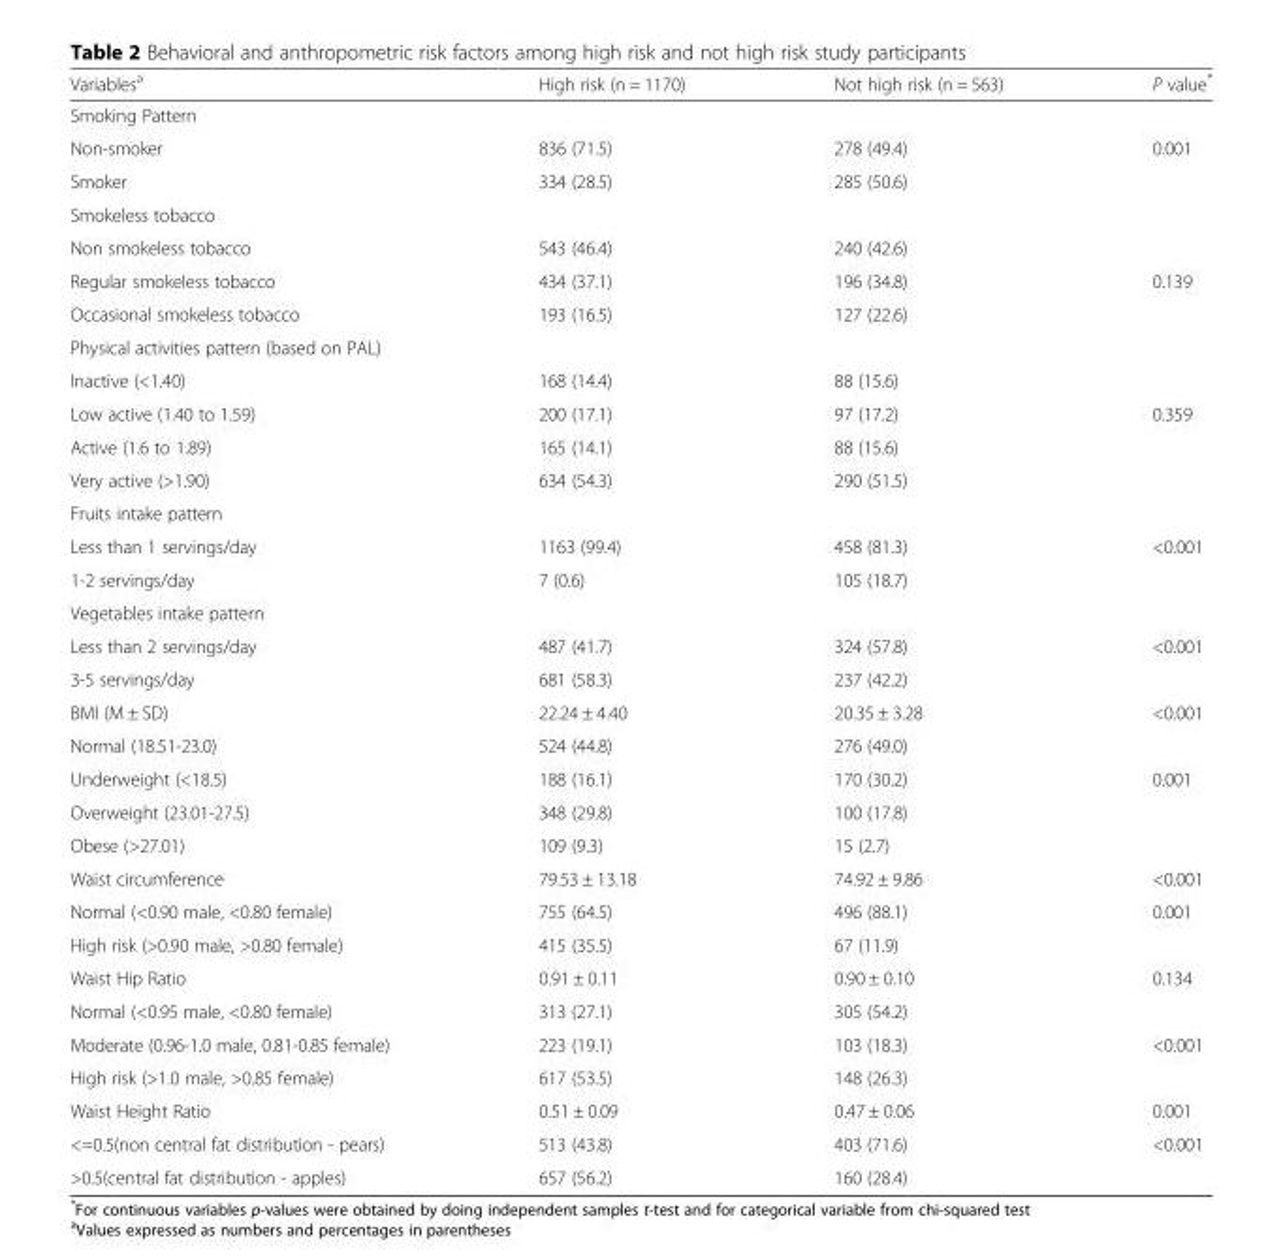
<table><thead><tr><td>Variables<sup>a</sup></td><td>High risk (n = 1170)</td><td>Not high risk (n = 563)</td><td>P value*</td></tr></thead><tbody><tr><td colspan="4">Smoking Pattern</td></tr><tr><td>Non-smoker</td><td>836 (71.5)</td><td>278 (49.4)</td><td>0.001</td></tr><tr><td>Smoker</td><td>334 (28.5)</td><td>285 (50.6)</td><td></td></tr><tr><td colspan="4">Smokeless tobacco</td></tr><tr><td>Non smokeless tobacco</td><td>543 (46.4)</td><td>240 (42.6)</td><td></td></tr><tr><td>Regular smokeless tobacco</td><td>434 (37.1)</td><td>196 (34.8)</td><td>0.139</td></tr><tr><td>Occasional smokeless tobacco</td><td>193 (16.5)</td><td>127 (22.6)</td><td></td></tr><tr><td colspan="4">Physical activities pattern (based on PAL)</td></tr><tr><td>Inactive (&lt;1.40)</td><td>168 (14.4)</td><td>88 (15.6)</td><td></td></tr><tr><td>Low active (1.40 to 1.59)</td><td>200 (17.1)</td><td>97 (17.2)</td><td>0.359</td></tr><tr><td>Active (1.6 to 1.89)</td><td>165 (14.1)</td><td>88 (15.6)</td><td></td></tr><tr><td>Very active (&gt;1.90)</td><td>634 (54.3)</td><td>290 (51.5)</td><td></td></tr><tr><td colspan="4">Fruits intake pattern</td></tr><tr><td>Less than 1 servings/day</td><td>1163 (99.4)</td><td>458 (81.3)</td><td>&lt;0.001</td></tr><tr><td>1-2 servings/day</td><td>7 (0.6)</td><td>105 (18.7)</td><td></td></tr><tr><td colspan="4">Vegetables intake pattern</td></tr><tr><td>Less than 2 servings/day</td><td>487 (41.7)</td><td>324 (57.8)</td><td>&lt;0.001</td></tr><tr><td>3-5 servings/day</td><td>681 (58.3)</td><td>237 (42.2)</td><td></td></tr><tr><td>BMI (M ± SD)</td><td>22.24 ± 4.40</td><td>20.35 ± 3.28</td><td>&lt;0.001</td></tr><tr><td>Normal (18.51-23.0)</td><td>524 (44.8)</td><td>276 (49.0)</td><td></td></tr><tr><td>Underweight (&lt;18.5)</td><td>188 (16.1)</td><td>170 (30.2)</td><td>0.001</td></tr><tr><td>Overweight (23.01-27.5)</td><td>348 (29.8)</td><td>100 (17.8)</td><td></td></tr><tr><td>Obese (&gt;27.01)</td><td>109 (9.3)</td><td>15 (2.7)</td><td></td></tr><tr><td>Waist circumference</td><td>79.53 ± 13.18</td><td>74.92 ± 9.86</td><td>&lt;0.001</td></tr><tr><td>Normal (&lt;0.90 male, &lt;0.80 female)</td><td>755 (64.5)</td><td>496 (88.1)</td><td>0.001</td></tr><tr><td>High risk (&gt;0.90 male, &gt;0.80 female)</td><td>415 (35.5)</td><td>67 (11.9)</td><td></td></tr><tr><td>Waist Hip Ratio</td><td>0.91 ± 0.11</td><td>0.90 ± 0.10</td><td>0.134</td></tr><tr><td>Normal (&lt;0.95 male, &lt;0.80 female)</td><td>313 (27.1)</td><td>305 (54.2)</td><td></td></tr><tr><td>Moderate (0.96-1.0 male, 0.81-0.85 female)</td><td>223 (19.1)</td><td>103 (18.3)</td><td>&lt;0.001</td></tr><tr><td>High risk (&gt;1.0 male, &gt;0.85 female)</td><td>617 (53.5)</td><td>148 (26.3)</td><td></td></tr><tr><td>Waist Height Ratio</td><td>0.51 ± 0.09</td><td>0.47 ± 0.06</td><td>0.001</td></tr><tr><td>&lt;=0.5(non central fat distribution - pears)</td><td>513 (43.8)</td><td>403 (71.6)</td><td>&lt;0.001</td></tr><tr><td>&gt;0.5(central fat distribution - apples)</td><td>657 (56.2)</td><td>160 (28.4)</td><td></td></tr></tbody></table>